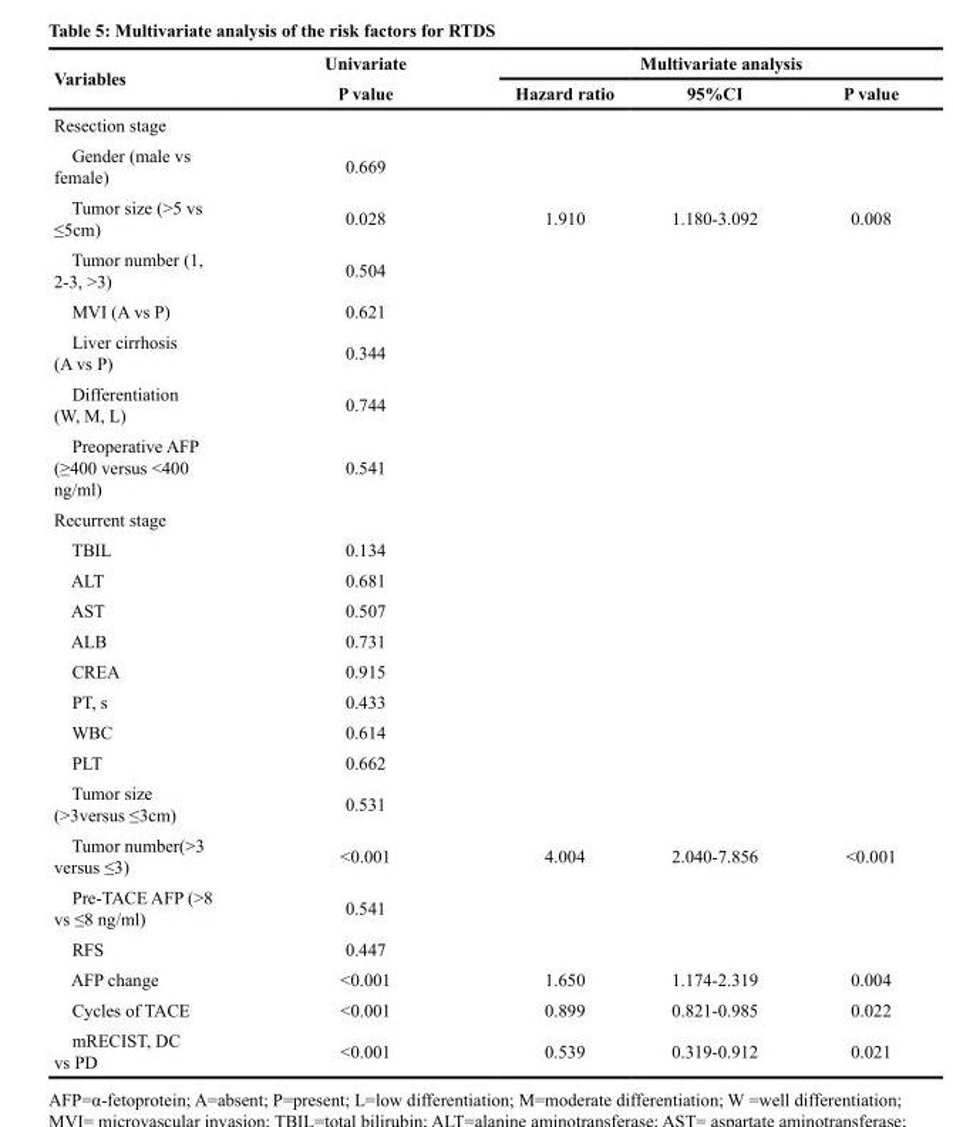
<table><thead><tr><td rowspan="2">Variables</td><td rowspan="2">Univariate P value</td><td colspan="3">Multivariate analysis</td></tr><tr><td>Hazard ratio</td><td>95%CI</td><td>P value</td></tr></thead><tbody><tr><td colspan="5">Resection stage</td></tr><tr><td>Gender (male vs female)</td><td>0.669</td><td></td><td></td><td></td></tr><tr><td>Tumor size (&gt;5 vs ≤5cm)</td><td>0.028</td><td>1.910</td><td>1.180-3.092</td><td>0.008</td></tr><tr><td>Tumor number (1, 2-3, &gt;3)</td><td>0.504</td><td></td><td></td><td></td></tr><tr><td>MVI (A vs P)</td><td>0.621</td><td></td><td></td><td></td></tr><tr><td>Liver cirrhosis (A vs P)</td><td>0.344</td><td></td><td></td><td></td></tr><tr><td>Differentiation (W, M, L)</td><td>0.744</td><td></td><td></td><td></td></tr><tr><td>Preoperative AFP (≥400 versus &lt;400 ng/ml)</td><td>0.541</td><td></td><td></td><td></td></tr><tr><td colspan="5">Recurrent stage</td></tr><tr><td>TBIL</td><td>0.134</td><td></td><td></td><td></td></tr><tr><td>ALT</td><td>0.681</td><td></td><td></td><td></td></tr><tr><td>AST</td><td>0.507</td><td></td><td></td><td></td></tr><tr><td>ALB</td><td>0.731</td><td></td><td></td><td></td></tr><tr><td>CREA</td><td>0.915</td><td></td><td></td><td></td></tr><tr><td>PT, s</td><td>0.433</td><td></td><td></td><td></td></tr><tr><td>WBC</td><td>0.614</td><td></td><td></td><td></td></tr><tr><td>PLT</td><td>0.662</td><td></td><td></td><td></td></tr><tr><td>Tumor size (&gt;3versus ≤3cm)</td><td>0.531</td><td></td><td></td><td></td></tr><tr><td>Tumor number(&gt;3 versus ≤3)</td><td>&lt;0.001</td><td>4.004</td><td>2.040-7.856</td><td>&lt;0.001</td></tr><tr><td>Pre-TACE AFP (&gt;8 vs ≤8 ng/ml)</td><td>0.541</td><td></td><td></td><td></td></tr><tr><td>RFS</td><td>0.447</td><td></td><td></td><td></td></tr><tr><td>AFP change</td><td>&lt;0.001</td><td>1.650</td><td>1.174-2.319</td><td>0.004</td></tr><tr><td>Cycles of TACE</td><td>&lt;0.001</td><td>0.899</td><td>0.821-0.985</td><td>0.022</td></tr><tr><td>mRECIST, DC vs PD</td><td>&lt;0.001</td><td>0.539</td><td>0.319-0.912</td><td>0.021</td></tr></tbody></table>